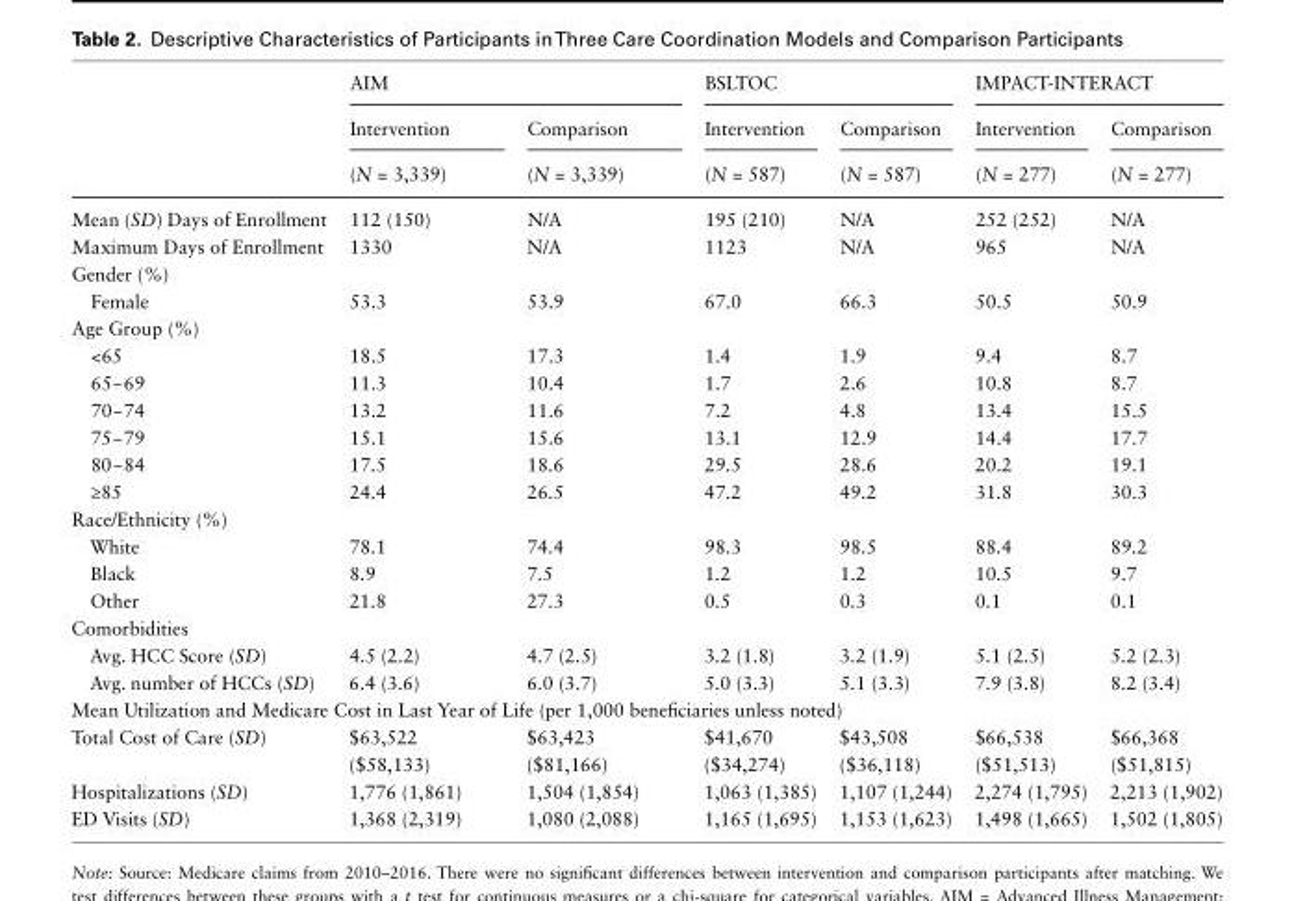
<table><thead><tr><td rowspan="3"></td><td colspan="2">AIM</td><td colspan="2">BSLTOC</td><td colspan="2">IMPACT-INTERACT</td></tr><tr><td rowspan="2">Intervention (N = 3,339)</td><td rowspan="2">Comparison (N = 3,339)</td><td rowspan="2">Intervention (N = 587)</td><td rowspan="2">Comparison (N = 587)</td><td rowspan="2">Intervention (N = 277)</td><td rowspan="2">Comparison (N = 277)</td></tr><tr></tr></thead><tbody><tr><td>Mean (SD) Days of Enrollment</td><td>112 (150)</td><td>N/A</td><td>195 (210)</td><td>N/A</td><td>252 (252)</td><td>N/A</td></tr><tr><td>Maximum Days of Enrollment</td><td>1330</td><td>N/A</td><td>1123</td><td>N/A</td><td>965</td><td>N/A</td></tr><tr><td colspan="7">Gender (%)</td></tr><tr><td>Female</td><td>53.3</td><td>53.9</td><td>67.0</td><td>66.3</td><td>50.5</td><td>50.9</td></tr><tr><td colspan="7">Age Group (%)</td></tr><tr><td>&lt;65</td><td>18.5</td><td>17.3</td><td>1.4</td><td>1.9</td><td>9.4</td><td>8.7</td></tr><tr><td>65‒69</td><td>11.3</td><td>10.4</td><td>1.7</td><td>2.6</td><td>10.8</td><td>8.7</td></tr><tr><td>70‒74</td><td>13.2</td><td>11.6</td><td>7.2</td><td>4.8</td><td>13.4</td><td>15.5</td></tr><tr><td>75‒79</td><td>15.1</td><td>15.6</td><td>13.1</td><td>12.9</td><td>14.4</td><td>17.7</td></tr><tr><td>80‒84</td><td>17.5</td><td>18.6</td><td>29.5</td><td>28.6</td><td>20.2</td><td>19.1</td></tr><tr><td>≥85</td><td>24.4</td><td>26.5</td><td>47.2</td><td>49.2</td><td>31.8</td><td>30.3</td></tr><tr><td colspan="7">Race/Ethnicity (%)</td></tr><tr><td>White</td><td>78.1</td><td>74.4</td><td>98.3</td><td>98.5</td><td>88.4</td><td>89.2</td></tr><tr><td>Black</td><td>8.9</td><td>7.5</td><td>1.2</td><td>1.2</td><td>10.5</td><td>9.7</td></tr><tr><td>Other</td><td>21.8</td><td>27.3</td><td>0.5</td><td>0.3</td><td>0.1</td><td>0.1</td></tr><tr><td colspan="7">Comorbidities</td></tr><tr><td>Avg. HCC Score (SD)</td><td>4.5 (2.2)</td><td>4.7 (2.5)</td><td>3.2 (1.8)</td><td>3.2 (1.9)</td><td>5.1 (2.5)</td><td>5.2 (2.3)</td></tr><tr><td>Avg. number of HCCs (SD)</td><td>6.4 (3.6)</td><td>6.0 (3.7)</td><td>5.0 (3.3)</td><td>5.1 (3.3)</td><td>7.9 (3.8)</td><td>8.2 (3.4)</td></tr><tr><td colspan="7">Mean Utilization and Medicare Cost in Last Year of Life (per 1,000 beneficiaries unless noted)</td></tr><tr><td>Total Cost of Care (SD)</td><td>$63,522 ($58,133)</td><td>$63,423 ($81,166)</td><td>$41,670 ($34,274)</td><td>$43,508 ($36,118)</td><td>$66,538 ($51,513)</td><td>$66,368 ($51,815)</td></tr><tr><td>Hospitalizations (SD)</td><td>1,776 (1,861)</td><td>1,504 (1,854)</td><td>1,063 (1,385)</td><td>1,107 (1,244)</td><td>2,274 (1,795)</td><td>2,213 (1,902)</td></tr><tr><td>ED Visits (SD)</td><td>1,368 (2,319)</td><td>1,080 (2,088)</td><td>1,165 (1,695)</td><td>1,153 (1,623)</td><td>1,498 (1,665)</td><td>1,502 (1,805)</td></tr></tbody></table>